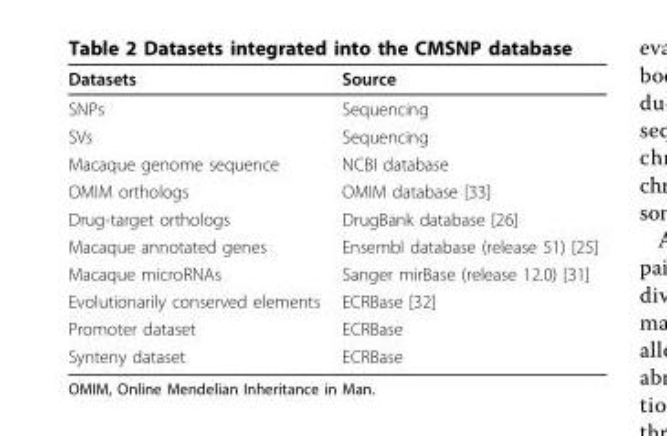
<table><thead><tr><td>Datasets</td><td>Source</td></tr></thead><tbody><tr><td>SNPs</td><td>Sequencing</td></tr><tr><td>SVs</td><td>Sequencing</td></tr><tr><td>Macaque genome sequence</td><td>NCBI database</td></tr><tr><td>OMIM orthologs</td><td>OMIM database [33]</td></tr><tr><td>Drug-target orthologs</td><td>DrugBank database [26]</td></tr><tr><td>Macaque annotated genes</td><td>Ensembl database (release 51) [25]</td></tr><tr><td>Macaque microRNAs</td><td>Sanger mirBase (release 12.0) [31]</td></tr><tr><td>Evolutionarily conserved elements</td><td>ECRBase [32]</td></tr><tr><td>Promoter dataset</td><td>ECRBase</td></tr><tr><td>Synteny dataset</td><td>ECRBase</td></tr></tbody></table>